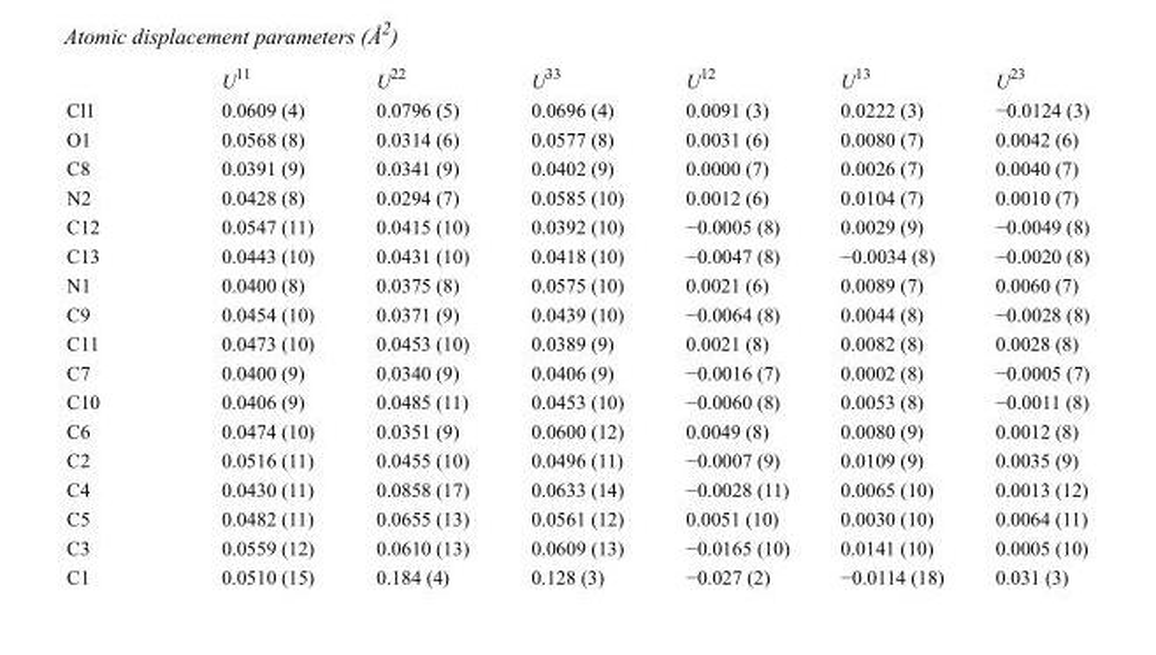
<table><thead><tr><td></td><td>U<sup>11</sup></td><td>U<sup>22</sup></td><td>U<sup>33</sup></td><td>U<sup>12</sup></td><td>U<sup>13</sup></td><td>U<sup>23</sup></td></tr></thead><tbody><tr><td>Cl1</td><td>0.0609 (4)</td><td>0.0796 (5)</td><td>0.0696 (4)</td><td>0.0091 (3)</td><td>0.0222 (3)</td><td>−0.0124 (3)</td></tr><tr><td>O1</td><td>0.0568 (8)</td><td>0.0314 (6)</td><td>0.0577 (8)</td><td>0.0031 (6)</td><td>0.0080 (7)</td><td>0.0042 (6)</td></tr><tr><td>C8</td><td>0.0391 (9)</td><td>0.0341 (9)</td><td>0.0402 (9)</td><td>0.0000 (7)</td><td>0.0026 (7)</td><td>0.0040 (7)</td></tr><tr><td>N2</td><td>0.0428 (8)</td><td>0.0294 (7)</td><td>0.0585 (10)</td><td>0.0012 (6)</td><td>0.0104 (7)</td><td>0.0010 (7)</td></tr><tr><td>C12</td><td>0.0547 (11)</td><td>0.0415 (10)</td><td>0.0392 (10)</td><td>−0.0005 (8)</td><td>0.0029 (9)</td><td>−0.0049 (8)</td></tr><tr><td>C13</td><td>0.0443 (10)</td><td>0.0431 (10)</td><td>0.0418 (10)</td><td>−0.0047 (8)</td><td>−0.0034 (8)</td><td>−0.0020 (8)</td></tr><tr><td>N1</td><td>0.0400 (8)</td><td>0.0375 (8)</td><td>0.0575 (10)</td><td>0.0021 (6)</td><td>0.0089 (7)</td><td>0.0060 (7)</td></tr><tr><td>C9</td><td>0.0454 (10)</td><td>0.0371 (9)</td><td>0.0439 (10)</td><td>−0.0064 (8)</td><td>0.0044 (8)</td><td>−0.0028 (8)</td></tr><tr><td>C11</td><td>0.0473 (10)</td><td>0.0453 (10)</td><td>0.0389 (9)</td><td>0.0021 (8)</td><td>0.0082 (8)</td><td>0.0028 (8)</td></tr><tr><td>C7</td><td>0.0400 (9)</td><td>0.0340 (9)</td><td>0.0406 (9)</td><td>−0.0016 (7)</td><td>0.0002 (8)</td><td>−0.0005 (7)</td></tr><tr><td>C10</td><td>0.0406 (9)</td><td>0.0485 (11)</td><td>0.0453 (10)</td><td>−0.0060 (8)</td><td>0.0053 (8)</td><td>−0.0011 (8)</td></tr><tr><td>C6</td><td>0.0474 (10)</td><td>0.0351 (9)</td><td>0.0600 (12)</td><td>0.0049 (8)</td><td>0.0080 (9)</td><td>0.0012 (8)</td></tr><tr><td>C2</td><td>0.0516 (11)</td><td>0.0455 (10)</td><td>0.0496 (11)</td><td>−0.0007 (9)</td><td>0.0109 (9)</td><td>0.0035 (9)</td></tr><tr><td>C4</td><td>0.0430 (11)</td><td>0.0858 (17)</td><td>0.0633 (14)</td><td>−0.0028 (11)</td><td>0.0065 (10)</td><td>0.0013 (12)</td></tr><tr><td>C5</td><td>0.0482 (11)</td><td>0.0655 (13)</td><td>0.0561 (12)</td><td>0.0051 (10)</td><td>0.0030 (10)</td><td>0.0064 (11)</td></tr><tr><td>C3</td><td>0.0559 (12)</td><td>0.0610 (13)</td><td>0.0609 (13)</td><td>−0.0165 (10)</td><td>0.0141 (10)</td><td>0.0005 (10)</td></tr><tr><td>C1</td><td>0.0510 (15)</td><td>0.184 (4)</td><td>0.128 (3)</td><td>−0.027 (2)</td><td>−0.0114 (18)</td><td>0.031 (3)</td></tr></tbody></table>